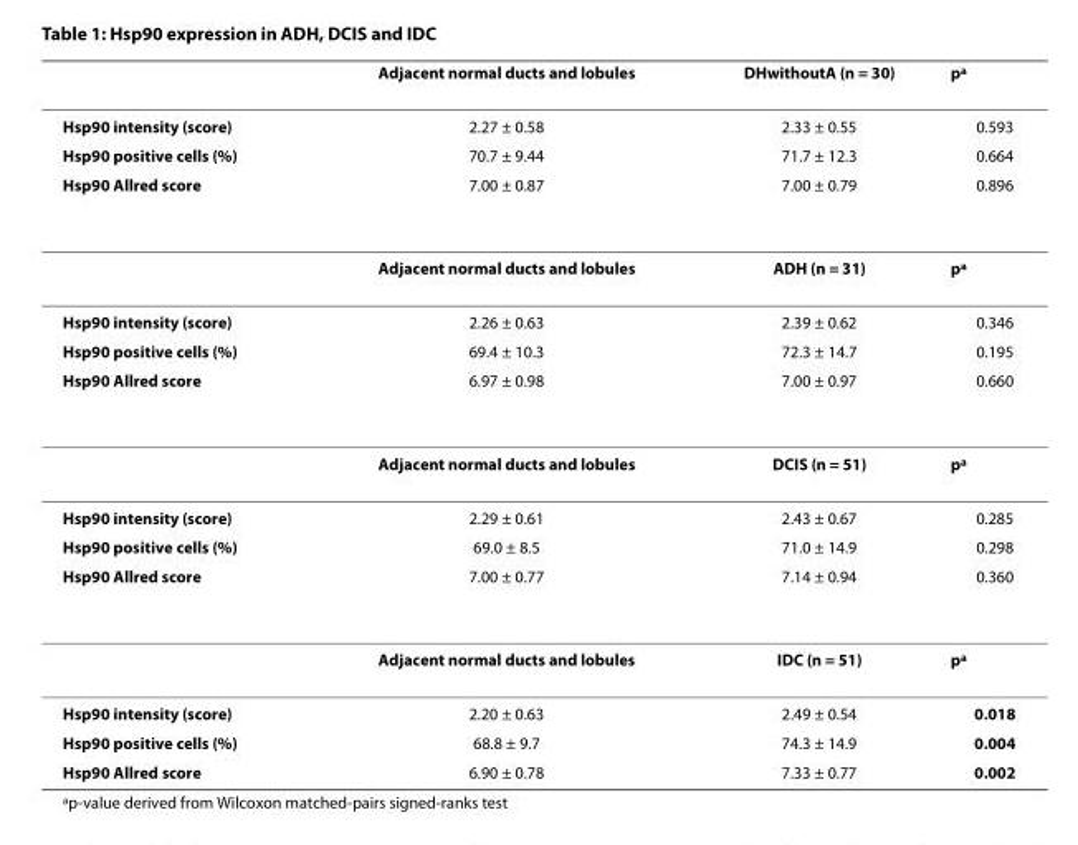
<table><thead><tr><td></td><td>Adjacent normal ducts and lobules</td><td>DHwithoutA (n = 30)</td><td>p<sup>a</sup></td></tr></thead><tbody><tr><td>Hsp90 intensity (score)</td><td>2.27 ± 0.58</td><td>2.33 ± 0.55</td><td>0.593</td></tr><tr><td>Hsp90 positive cells (%)</td><td>70.7 ± 9.44</td><td>71.7 ± 12.3</td><td>0.664</td></tr><tr><td rowspan="2">Hsp90 Allred score</td><td>7.00 ± 0.87</td><td>7.00 ± 0.79</td><td>0.896</td></tr><tr><td>Adjacent normal ducts and lobules</td><td>ADH (n = 31)</td><td>p<sup>a</sup></td></tr><tr><td>Hsp90 intensity (score)</td><td>2.26 ± 0.63</td><td>2.39 ± 0.62</td><td>0.346</td></tr><tr><td>Hsp90 positive cells (%)</td><td>69.4 ± 10.3</td><td>72.3 ± 14.7</td><td>0.195</td></tr><tr><td rowspan="2">Hsp90 Allred score</td><td>6.97 ± 0.98</td><td>7.00 ± 0.97</td><td>0.660</td></tr><tr><td>Adjacent normal ducts and lobules</td><td>DCIS (n = 51)</td><td>p<sup>a</sup></td></tr><tr><td>Hsp90 intensity (score)</td><td>2.29 ± 0.61</td><td>2.43 ± 0.67</td><td>0.285</td></tr><tr><td>Hsp90 positive cells (%)</td><td>69.0 ± 8.5</td><td>71.0 ± 14.9</td><td>0.298</td></tr><tr><td rowspan="2">Hsp90 Allred score</td><td>7.00 ± 0.77</td><td>7.14 ± 0.94</td><td>0.360</td></tr><tr><td>Adjacent normal ducts and lobules</td><td>IDC (n = 51)</td><td>p<sup>a</sup></td></tr><tr><td>Hsp90 intensity (score)</td><td>2.20 ± 0.63</td><td>2.49 ± 0.54</td><td>0.018</td></tr><tr><td>Hsp90 positive cells (%)</td><td>68.8 ± 9.7</td><td>74.3 ± 14.9</td><td>0.004</td></tr><tr><td>Hsp90 Allred score</td><td>6.90 ± 0.78</td><td>7.33 ± 0.77</td><td>0.002</td></tr></tbody></table>